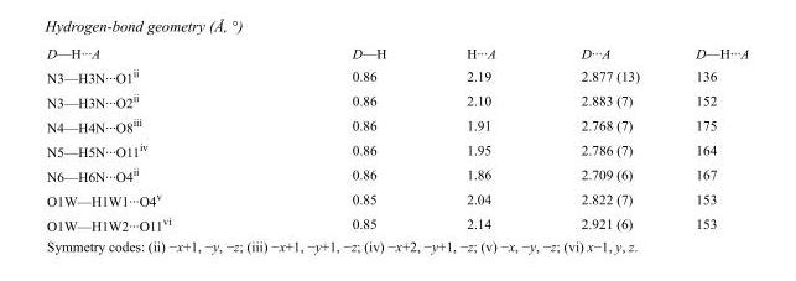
<table><tbody><tr><td>D—H···A</td><td>D—H</td><td>H···A</td><td>D···A</td><td>D—H···A</td></tr><tr><td>N3—H3N···O1<sup>ii</sup></td><td>0.86</td><td>2.19</td><td>2.877 (13)</td><td>136</td></tr><tr><td>N3—H3N···O2<sup>ii</sup></td><td>0.86</td><td>2.10</td><td>2.883 (7)</td><td>152</td></tr><tr><td>N4—H4N···O8<sup>iii</sup></td><td>0.86</td><td>1.91</td><td>2.768 (7)</td><td>175</td></tr><tr><td>N5—H5N···O11<sup>iv</sup></td><td>0.86</td><td>1.95</td><td>2.786 (7)</td><td>164</td></tr><tr><td>N6—H6N···O4<sup>ii</sup></td><td>0.86</td><td>1.86</td><td>2.709 (6)</td><td>167</td></tr><tr><td>O1W—H1W1···O4<sup>v</sup></td><td>0.85</td><td>2.04</td><td>2.822 (7)</td><td>153</td></tr><tr><td>O1W—H1W2···O11<sup>vi</sup></td><td>0.85</td><td>2.14</td><td>2.921 (6)</td><td>153</td></tr></tbody></table>